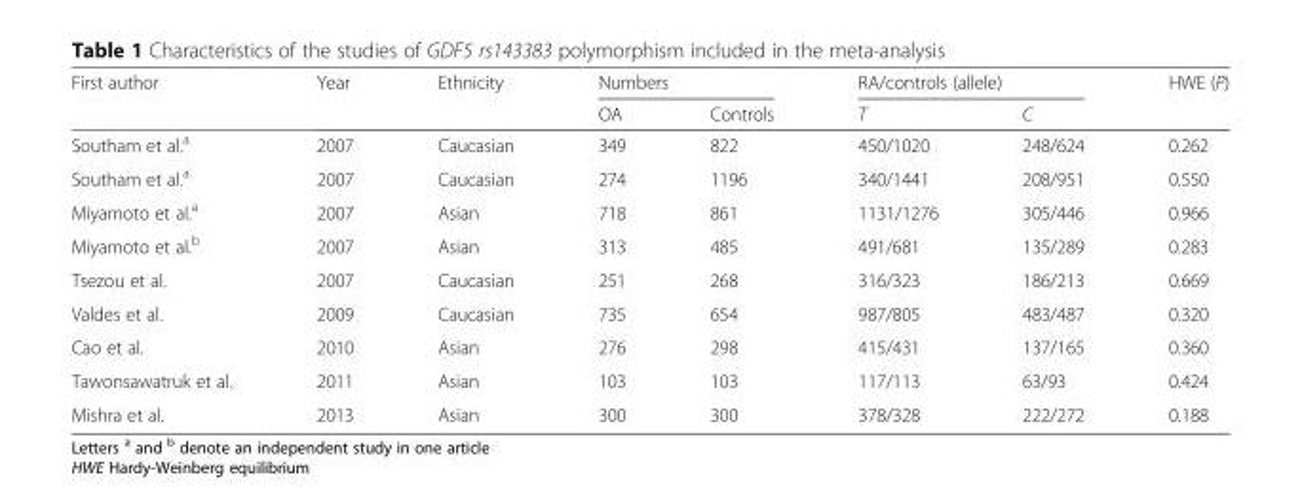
<table><thead><tr><td rowspan="2">First author</td><td rowspan="2">Year</td><td rowspan="2">Ethnicity</td><td colspan="2">Numbers</td><td colspan="2">RA/controls (allele)</td><td rowspan="2">HWE (P)</td></tr><tr><td>OA</td><td>Controls</td><td>T</td><td>C</td></tr></thead><tbody><tr><td>Southam et al.<sup>a</sup></td><td>2007</td><td>Caucasian</td><td>349</td><td>822</td><td>450/1020</td><td>248/624</td><td>0.262</td></tr><tr><td>Southam et al.<sup>a</sup></td><td>2007</td><td>Caucasian</td><td>274</td><td>1196</td><td>340/1441</td><td>208/951</td><td>0.550</td></tr><tr><td>Miyamoto et al.<sup>a</sup></td><td>2007</td><td>Asian</td><td>718</td><td>861</td><td>1131/1276</td><td>305/446</td><td>0.966</td></tr><tr><td>Miyamoto et al.<sup>b</sup></td><td>2007</td><td>Asian</td><td>313</td><td>485</td><td>491/681</td><td>135/289</td><td>0.283</td></tr><tr><td>Tsezou et al.</td><td>2007</td><td>Caucasian</td><td>251</td><td>268</td><td>316/323</td><td>186/213</td><td>0.669</td></tr><tr><td>Valdes et al.</td><td>2009</td><td>Caucasian</td><td>735</td><td>654</td><td>987/805</td><td>483/487</td><td>0.320</td></tr><tr><td>Cao et al.</td><td>2010</td><td>Asian</td><td>276</td><td>298</td><td>415/431</td><td>137/165</td><td>0.360</td></tr><tr><td>Tawonsawatruk et al.</td><td>2011</td><td>Asian</td><td>103</td><td>103</td><td>117/113</td><td>63/93</td><td>0.424</td></tr><tr><td>Mishra et al.</td><td>2013</td><td>Asian</td><td>300</td><td>300</td><td>378/328</td><td>222/272</td><td>0.188</td></tr></tbody></table>